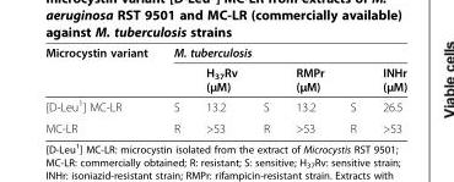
<table><thead><tr><td rowspan="2">Microcystin variant</td><td colspan="6">M. tuberculosis</td></tr><tr><td></td><td>H<sub>37</sub>Rv (μM)</td><td></td><td>RMPr (μM)</td><td></td><td>INHr (μM)</td></tr></thead><tbody><tr><td>[D-Leu<sup>1</sup>] MC-LR</td><td>S</td><td>13.2</td><td>S</td><td>13.2</td><td>S</td><td>26.5</td></tr><tr><td>MC-LR</td><td>R</td><td>&gt;53</td><td>R</td><td>&gt;53</td><td>R</td><td>&gt;53</td></tr></tbody></table>